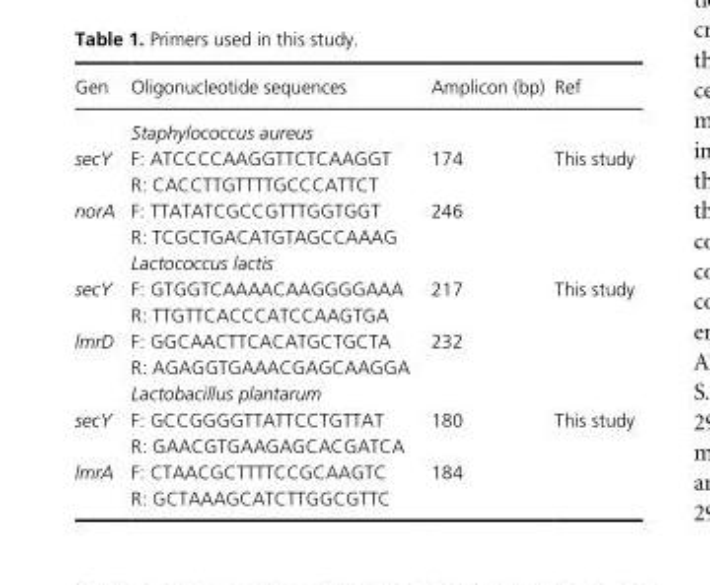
<table><thead><tr><td>Gen</td><td>Oligonucleotide sequences</td><td>Amplicon (bp)</td><td>Ref</td></tr></thead><tbody><tr><td></td><td colspan="3">Staphylococcus aureus</td></tr><tr><td rowspan="2">secY</td><td>F: ATCCCCAAGGTTCTCAAGGT</td><td rowspan="2">174</td><td rowspan="2">This study</td></tr><tr><td>R: CACCTTGTTTTGCCCATTCT</td></tr><tr><td rowspan="3">norA</td><td>F: TTATATCGCCGTTTGGTGGT</td><td rowspan="3">246</td><td rowspan="3"></td></tr><tr><td>R: TCGCTGACATGTAGCCAAAG</td></tr><tr><td>Lactococcus lactis</td></tr><tr><td rowspan="2">secY</td><td>F: GTGGTCAAAACAAGGGGAAA</td><td rowspan="2">217</td><td rowspan="2">This study</td></tr><tr><td>R: TTGTTCACCCATCCAAGTGA</td></tr><tr><td rowspan="3">lmrD</td><td>F: GGCAACTTCACATGCTGCTA</td><td rowspan="3">232</td><td rowspan="3"></td></tr><tr><td>R: AGAGGTGAAACGAGCAAGGA</td></tr><tr><td>Lactobacillus plantarum</td></tr><tr><td rowspan="2">secY</td><td>F: GCCGGGGTTATTCCTGTTAT</td><td rowspan="2">180</td><td rowspan="2">This study</td></tr><tr><td>R: GAACGTGAAGAGCACGATCA</td></tr><tr><td rowspan="2">lmrA</td><td>F: CTAACGCTTTTCCGCAAGTC</td><td rowspan="2">184</td><td rowspan="2"></td></tr><tr><td>R: GCTAAAGCATCTTGGCGTTC</td></tr></tbody></table>